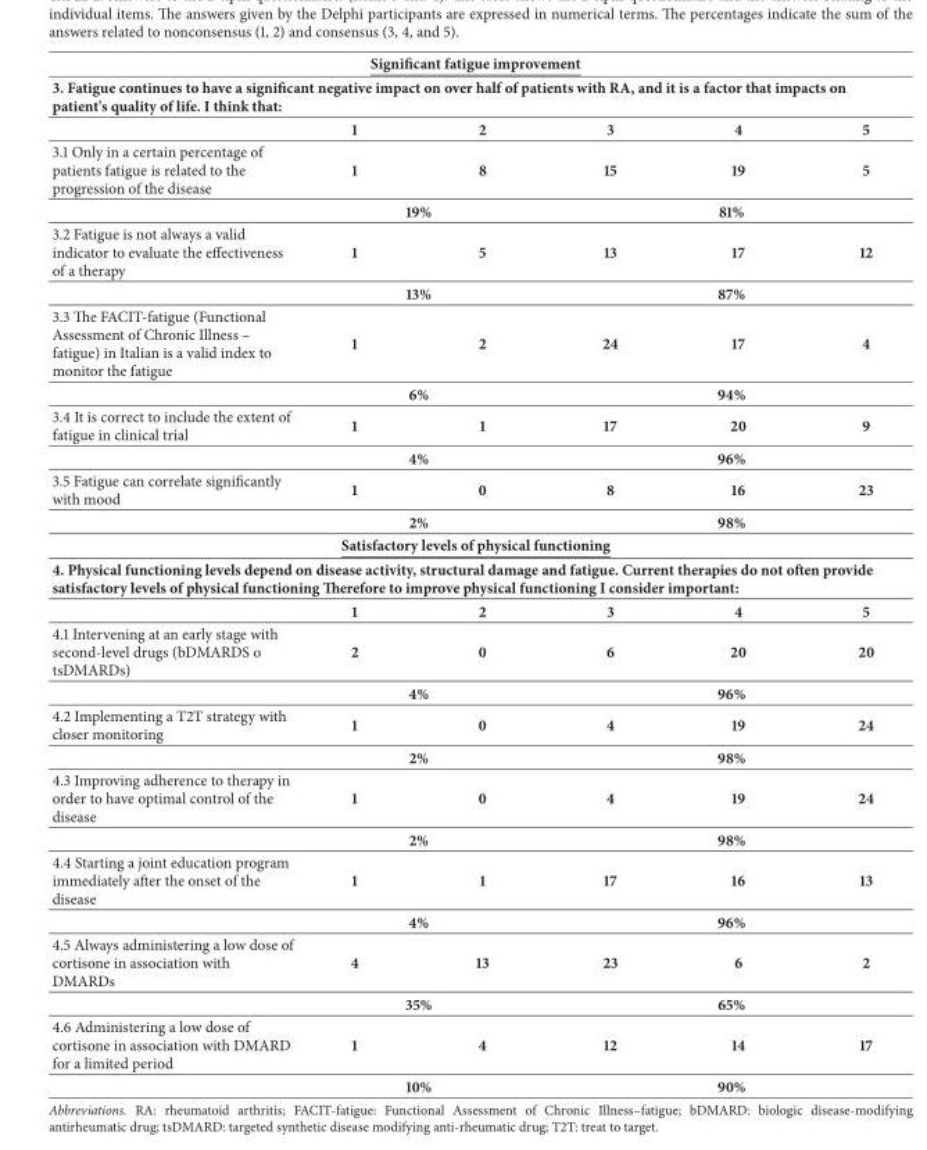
<table><thead><tr><td rowspan="2" colspan="6">Significant fatigue improvement 3. Fatigue continues to have a significant negative impact on over half of patients with RA, and it is a factor that impacts on patient&#x27;s quality of life. I think that:</td></tr><tr></tr><tr><td></td><td>1</td><td>2</td><td>3</td><td>4</td><td>5</td></tr></thead><tbody><tr><td rowspan="2">3.1 Only in a certain percentage of patients fatigue is related to the progression of the disease</td><td>1</td><td>8</td><td>15</td><td>19</td><td>5</td></tr><tr><td colspan="2">19%</td><td colspan="3">81%</td></tr><tr><td rowspan="2">3.2 Fatigue is not always a valid indicator to evaluate the effectiveness of a therapy</td><td>1</td><td>5</td><td>13</td><td>17</td><td>12</td></tr><tr><td colspan="2">13%</td><td colspan="3">87%</td></tr><tr><td rowspan="2">3.3 The FACIT-fatigue (Functional Assessment of Chronic Illness – fatigue) in Italian is a valid index to monitor the fatigue</td><td>1</td><td>2</td><td>24</td><td>17</td><td>4</td></tr><tr><td colspan="2">6%</td><td colspan="3">94%</td></tr><tr><td rowspan="2">3.4 It is correct to include the extent of fatigue in clinical trial</td><td>1</td><td>1</td><td>17</td><td>20</td><td>9</td></tr><tr><td colspan="2">4%</td><td colspan="3">96%</td></tr><tr><td rowspan="2">3.5 Fatigue can correlate significantly with mood</td><td>1</td><td>0</td><td>8</td><td>16</td><td>23</td></tr><tr><td colspan="2">2%</td><td colspan="3">98%</td></tr><tr><td colspan="6">Satisfactory levels of physical functioning</td></tr><tr><td colspan="6">4. Physical functioning levels depend on disease activity, structural damage and fatigue. Current therapies do not ofen provide satisfactory levels of physical functioning Terefore to improve physical functioning I consider important:</td></tr><tr><td></td><td>1</td><td>2</td><td>3</td><td>4</td><td>5</td></tr><tr><td rowspan="2">4.1 Intervening at an early stage with second-level drugs (bDMARDS o tsDMARDs)</td><td>2</td><td>0</td><td>6</td><td>20</td><td>20</td></tr><tr><td colspan="2">4%</td><td colspan="3">96%</td></tr><tr><td rowspan="2">4.2 Implementing a T2T strategy with closer monitoring</td><td>1</td><td>0</td><td>4</td><td>19</td><td>24</td></tr><tr><td colspan="2">2%</td><td colspan="3">98%</td></tr><tr><td rowspan="2">4.3 Improving adherence to therapy in order to have optimal control of the disease</td><td>1</td><td>0</td><td>4</td><td>19</td><td>24</td></tr><tr><td colspan="2">2%</td><td colspan="3">98%</td></tr><tr><td rowspan="2">4.4 Starting a joint education program immediately after the onset of the disease</td><td>1</td><td>1</td><td>17</td><td>16</td><td>13</td></tr><tr><td colspan="2">4%</td><td colspan="3">96%</td></tr><tr><td rowspan="2">4.5 Always administering a low dose of cortisone in association with DMARDs</td><td>4</td><td>13</td><td>23</td><td>6</td><td>2</td></tr><tr><td colspan="2">35%</td><td colspan="3">65%</td></tr><tr><td rowspan="2">4.6 Administering a low dose of cortisone in association with DMARD for a limited period</td><td>1</td><td>4</td><td>12</td><td>14</td><td>17</td></tr><tr><td colspan="2">10%</td><td colspan="3">90%</td></tr></tbody></table>